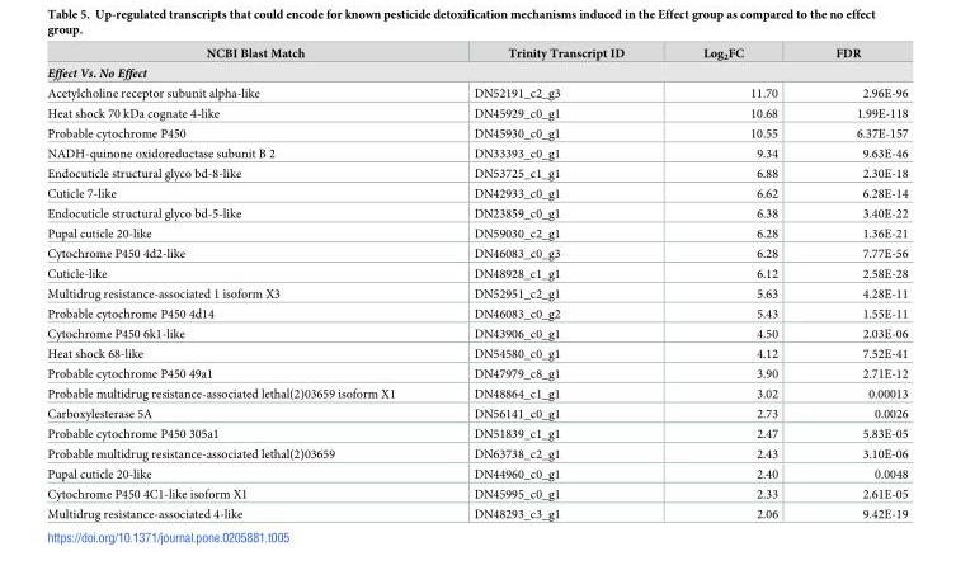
<table><thead><tr><td>NCBI Blast Match</td><td>Trinity Transcript ID</td><td>Log<sub>2</sub>FC</td><td>FDR</td></tr></thead><tbody><tr><td colspan="4">Effect Vs. No Effect</td></tr><tr><td>Acetylcholine receptor subunit alpha-like</td><td>DN52191_c2_g3</td><td>11.70</td><td>2.96E-96</td></tr><tr><td>Heat shock 70 kDa cognate 4-like</td><td>DN45929_c0_g1</td><td>10.68</td><td>1.99E-118</td></tr><tr><td>Probable cytochrome P450</td><td>DN45930_c0_g1</td><td>10.55</td><td>6.37E-157</td></tr><tr><td>NADH-quinone oxidoreductase subunit B 2</td><td>DN33393_c0_g1</td><td>9.34</td><td>9.63E-46</td></tr><tr><td>Endocuticle structural glyco bd-8-like</td><td>DN53725_c1_g1</td><td>6.88</td><td>2.30E-18</td></tr><tr><td>Cuticle 7-like</td><td>DN42933_c0_g1</td><td>6.62</td><td>6.28E-14</td></tr><tr><td>Endocuticle structural glyco bd-5-like</td><td>DN23859_c0_g1</td><td>6.38</td><td>3.40E-22</td></tr><tr><td>Pupal cuticle 20-like</td><td>DN59030_c2_g1</td><td>6.28</td><td>1.36E-21</td></tr><tr><td>Cytochrome P450 4d2-like</td><td>DN46083_c0_g3</td><td>6.28</td><td>7.77E-56</td></tr><tr><td>Cuticle-like</td><td>DN48928_c1_g1</td><td>6.12</td><td>2.58E-28</td></tr><tr><td>Multidrug resistance-associated 1 isoform X3</td><td>DN52951_c2_g1</td><td>5.63</td><td>4.28E-11</td></tr><tr><td>Probable cytochrome P450 4d14</td><td>DN46083_c0_g2</td><td>5.43</td><td>1.55E-11</td></tr><tr><td>Cytochrome P450 6k1-like</td><td>DN43906_c0_g1</td><td>4.50</td><td>2.03E-06</td></tr><tr><td>Heat shock 68-like</td><td>DN54580_c0_g1</td><td>4.12</td><td>7.52E-41</td></tr><tr><td>Probable cytochrome P450 49a1</td><td>DN47979_c8_g1</td><td>3.90</td><td>2.71E-12</td></tr><tr><td>Probable multidrug resistance-associated lethal(2)03659 isoform X1</td><td>DN48864_c1_g1</td><td>3.02</td><td>0.00013</td></tr><tr><td>Carboxylesterase 5A</td><td>DN56141_c0_g1</td><td>2.73</td><td>0.0026</td></tr><tr><td>Probable cytochrome P450 305a1</td><td>DN51839_c1_g1</td><td>2.47</td><td>5.83E-05</td></tr><tr><td>Probable multidrug resistance-associated lethal(2)03659</td><td>DN63738_c2_g1</td><td>2.43</td><td>3.10E-06</td></tr><tr><td>Pupal cuticle 20-like</td><td>DN44960_c0_g1</td><td>2.40</td><td>0.0048</td></tr><tr><td>Cytochrome P450 4C1-like isoform X1</td><td>DN45995_c0_g1</td><td>2.33</td><td>2.61E-05</td></tr><tr><td>Multidrug resistance-associated 4-like</td><td>DN48293_c3_g1</td><td>2.06</td><td>9.42E-19</td></tr></tbody></table>